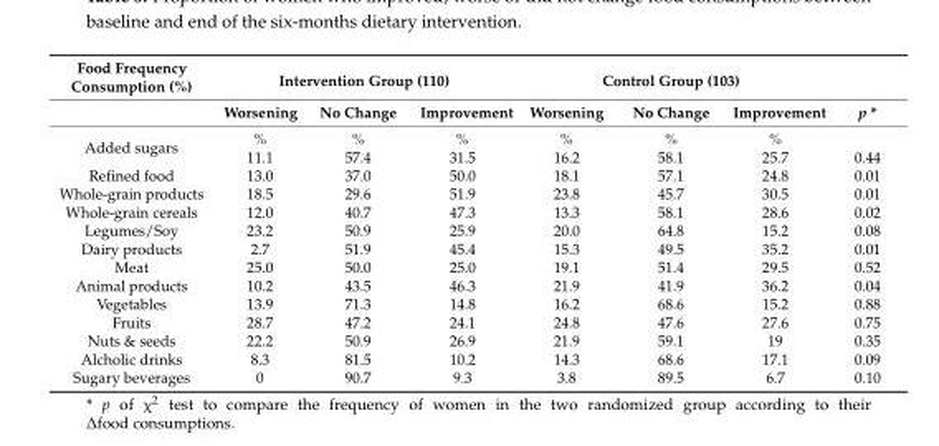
<table><thead><tr><td rowspan="2">Food Frequency Consumption (%)</td><td colspan="3">Intervention Group (110)</td><td colspan="3">Control Group (103)</td><td rowspan="2">p *</td></tr><tr><td>Worsening</td><td>No Change</td><td>Improvement</td><td>Worsening</td><td>No Change</td><td>Improvement</td></tr></thead><tbody><tr><td rowspan="2">Added sugars</td><td>%</td><td>%</td><td>%</td><td>%</td><td>%</td><td>%</td><td></td></tr><tr><td>11.1</td><td>57.4</td><td>31.5</td><td>16.2</td><td>58.1</td><td>25.7</td><td>0.44</td></tr><tr><td>Refined food</td><td>13.0</td><td>37.0</td><td>50.0</td><td>18.1</td><td>57.1</td><td>24.8</td><td>0.01</td></tr><tr><td>Whole-grain products</td><td>18.5</td><td>29.6</td><td>51.9</td><td>23.8</td><td>45.7</td><td>30.5</td><td>0.01</td></tr><tr><td>Whole-grain cereals</td><td>12.0</td><td>40.7</td><td>47.3</td><td>13.3</td><td>58.1</td><td>28.6</td><td>0.02</td></tr><tr><td>Legumes/Soy</td><td>23.2</td><td>50.9</td><td>25.9</td><td>20.0</td><td>64.8</td><td>15.2</td><td>0.08</td></tr><tr><td>Dairy products</td><td>2.7</td><td>51.9</td><td>45.4</td><td>15.3</td><td>49.5</td><td>35.2</td><td>0.01</td></tr><tr><td>Meat</td><td>25.0</td><td>50.0</td><td>25.0</td><td>19.1</td><td>51.4</td><td>29.5</td><td>0.52</td></tr><tr><td>Animal products</td><td>10.2</td><td>43.5</td><td>46.3</td><td>21.9</td><td>41.9</td><td>36.2</td><td>0.04</td></tr><tr><td>Vegetables</td><td>13.9</td><td>71.3</td><td>14.8</td><td>16.2</td><td>68.6</td><td>15.2</td><td>0.88</td></tr><tr><td>Fruits</td><td>28.7</td><td>47.2</td><td>24.1</td><td>24.8</td><td>47.6</td><td>27.6</td><td>0.75</td></tr><tr><td>Nuts &amp; seeds</td><td>22.2</td><td>50.9</td><td>26.9</td><td>21.9</td><td>59.1</td><td>19</td><td>0.35</td></tr><tr><td>Alcholic drinks</td><td>8.3</td><td>81.5</td><td>10.2</td><td>14.3</td><td>68.6</td><td>17.1</td><td>0.09</td></tr><tr><td>Sugary beverages</td><td>0</td><td>90.7</td><td>9.3</td><td>3.8</td><td>89.5</td><td>6.7</td><td>0.10</td></tr></tbody></table>